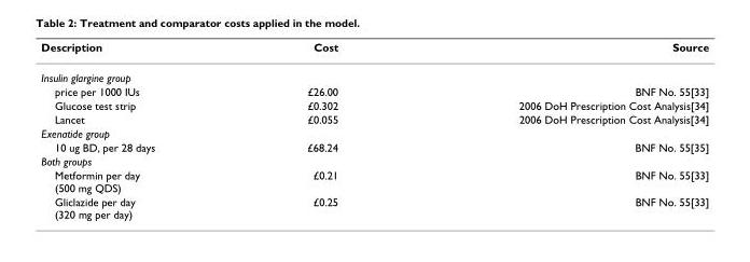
<table><thead><tr><td>Description</td><td>Cost</td><td>Source</td></tr></thead><tbody><tr><td colspan="3">Insulin glargine group</td></tr><tr><td>price per 1000 IUs</td><td>£26.00</td><td>BNF No. 55[33]</td></tr><tr><td>Glucose test strip</td><td>£0.302</td><td>2006 DoH Prescription Cost Analysis[34]</td></tr><tr><td>Lancet</td><td>£0.055</td><td>2006 DoH Prescription Cost Analysis[34]</td></tr><tr><td colspan="3">Exenatide group</td></tr><tr><td>10 ug BD, per 28 days</td><td>£68.24</td><td>BNF No. 55[35]</td></tr><tr><td colspan="3">Both groups</td></tr><tr><td>Metformin per day (500 mg QDS)</td><td>£0.21</td><td>BNF No. 55[33]</td></tr><tr><td>Gliclazide per day (320 mg per day)</td><td>£0.25</td><td>BNF No. 55[33]</td></tr></tbody></table>